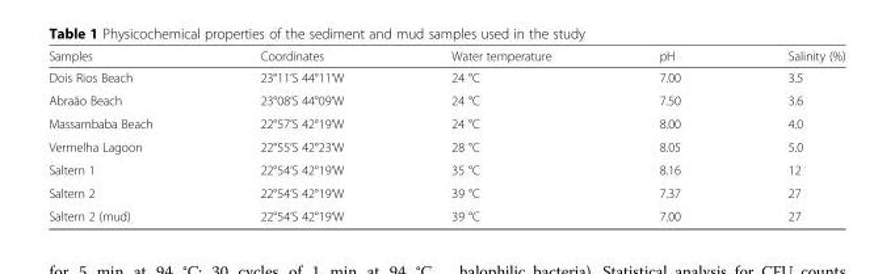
<table><thead><tr><td>Samples</td><td>Coordinates</td><td>Water temperature</td><td>pH</td><td>Salinity (%)</td></tr></thead><tbody><tr><td>Dois Rios Beach</td><td>23°11‘S 44°11‘W</td><td>24 °C</td><td>7.00</td><td>3.5</td></tr><tr><td>Abraão Beach</td><td>23°08‘S 44°09‘W</td><td>24 °C</td><td>7.50</td><td>3.6</td></tr><tr><td>Massambaba Beach</td><td>22°57‘S 42°19‘W</td><td>24 °C</td><td>8.00</td><td>4.0</td></tr><tr><td>Vermelha Lagoon</td><td>22°55‘S 42°23‘W</td><td>28 °C</td><td>8.05</td><td>5.0</td></tr><tr><td>Saltern 1</td><td>22°54‘S 42°19‘W</td><td>35 °C</td><td>8.16</td><td>12</td></tr><tr><td>Saltern 2</td><td>22°54‘S 42°19‘W</td><td>39 °C</td><td>7.37</td><td>27</td></tr><tr><td>Saltern 2 (mud)</td><td>22°54‘S 42°19‘W</td><td>39 °C</td><td>7.00</td><td>27</td></tr></tbody></table>